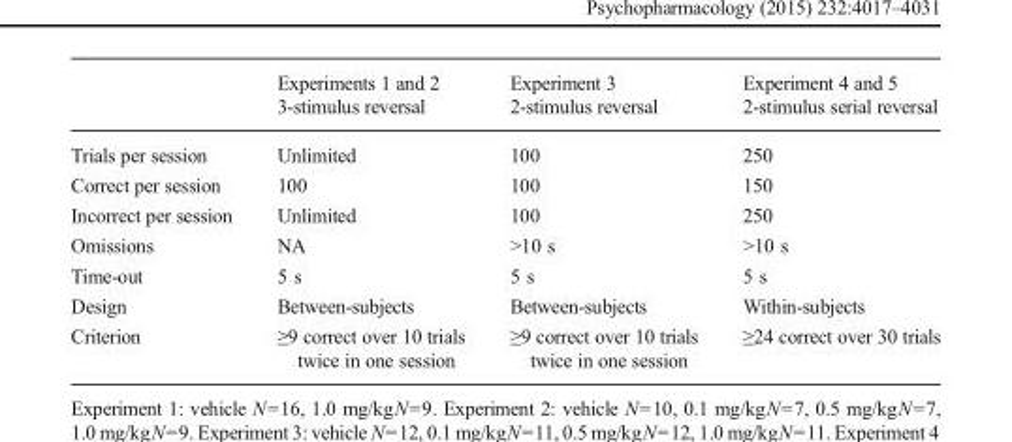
<table><thead><tr><td rowspan="2"></td><td rowspan="2">Experiments 1 and 2 3-stimulus reversal</td><td rowspan="2">Experiment 3 2-stimulus reversal</td><td rowspan="2">Experiment 4 and 5 2-stimulus serial reversal</td></tr><tr></tr></thead><tbody><tr><td>Trials per session</td><td>Unlimited</td><td>100</td><td>250</td></tr><tr><td>Correct per session</td><td>100</td><td>100</td><td>150</td></tr><tr><td>Incorrect per session</td><td>Unlimited</td><td>100</td><td>250</td></tr><tr><td>Omissions</td><td>NA</td><td>&gt;10 s</td><td>&gt;10 s</td></tr><tr><td>Time-out</td><td>5 s</td><td>5 s</td><td>5 s</td></tr><tr><td>Design</td><td>Between-subjects</td><td>Between-subjects</td><td>Within-subjects</td></tr><tr><td>Criterion</td><td>≥9 correct over 10 trials twice in one session</td><td>≥9 correct over 10 trials twice in one session</td><td>≥24 correct over 30 trials</td></tr></tbody></table>